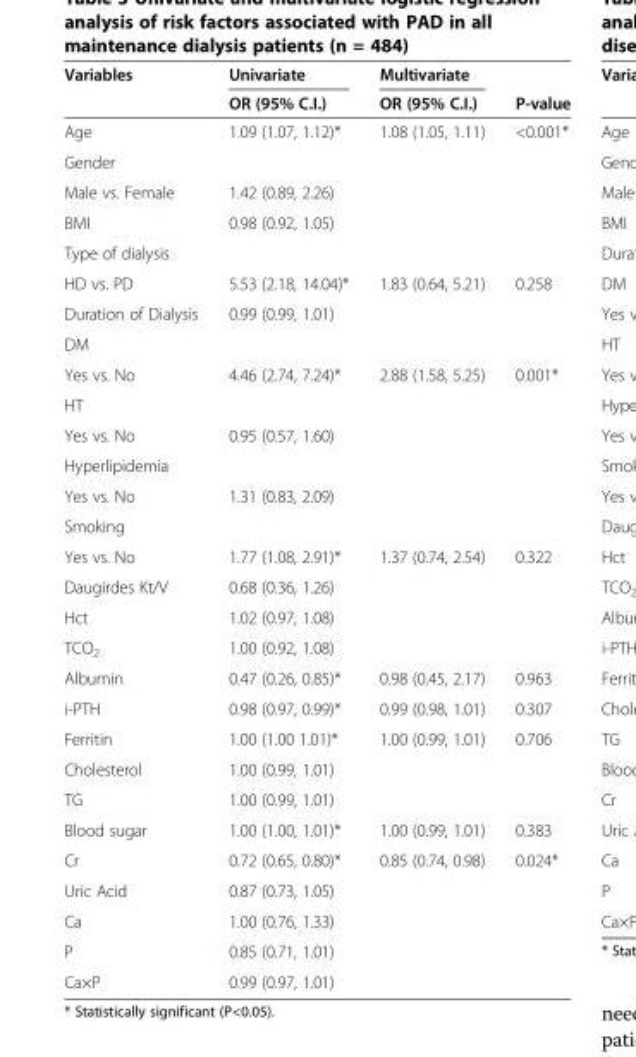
<table><thead><tr><td rowspan="2">Variables</td><td rowspan="2">Univariate OR (95% C.I.)</td><td rowspan="2">Multivariate OR (95% C.I.)</td><td rowspan="2">P-value</td></tr><tr></tr></thead><tbody><tr><td>Age</td><td>1.09 (1.07, 1.12)*</td><td>1.08 (1.05, 1.11)</td><td>&lt;0.001*</td></tr><tr><td colspan="4">Gender</td></tr><tr><td>Male vs. Female</td><td>1.42 (0.89, 2.26)</td><td></td><td></td></tr><tr><td>BMI</td><td>0.98 (0.92, 1.05)</td><td></td><td></td></tr><tr><td colspan="4">Type of dialysis</td></tr><tr><td>HD vs. PD</td><td>5.53 (2.18, 14.04)*</td><td>1.83 (0.64, 5.21)</td><td>0.258</td></tr><tr><td>Duration of Dialysis</td><td>0.99 (0.99, 1.01)</td><td></td><td></td></tr><tr><td colspan="4">DM</td></tr><tr><td>Yes vs. No</td><td>4.46 (2.74, 7.24)*</td><td>2.88 (1.58, 5.25)</td><td>0.001*</td></tr><tr><td colspan="4">HT</td></tr><tr><td>Yes vs. No</td><td>0.95 (0.57, 1.60)</td><td></td><td></td></tr><tr><td colspan="4">Hyperlipidemia</td></tr><tr><td>Yes vs. No</td><td>1.31 (0.83, 2.09)</td><td></td><td></td></tr><tr><td colspan="4">Smoking</td></tr><tr><td>Yes vs. No</td><td>1.77 (1.08, 2.91)*</td><td>1.37 (0.74, 2.54)</td><td>0.322</td></tr><tr><td>Daugirdes Kt/V</td><td>0.68 (0.36, 1.26)</td><td></td><td></td></tr><tr><td>Hct</td><td>1.02 (0.97, 1.08)</td><td></td><td></td></tr><tr><td>TCO<sub>2</sub></td><td>1.00 (0.92, 1.08)</td><td></td><td></td></tr><tr><td>Albumin</td><td>0.47 (0.26, 0.85)*</td><td>0.98 (0.45, 2.17)</td><td>0.963</td></tr><tr><td>i-PTH</td><td>0.98 (0.97, 0.99)*</td><td>0.99 (0.98, 1.01)</td><td>0.307</td></tr><tr><td>Ferritin</td><td>1.00 (1.00 1.01)*</td><td>1.00 (0.99, 1.01)</td><td>0.706</td></tr><tr><td>Cholesterol</td><td>1.00 (0.99, 1.01)</td><td></td><td></td></tr><tr><td>TG</td><td>1.00 (0.99, 1.01)</td><td></td><td></td></tr><tr><td>Blood sugar</td><td>1.00 (1.00, 1.01)*</td><td>1.00 (0.99, 1.01)</td><td>0.383</td></tr><tr><td>Cr</td><td>0.72 (0.65, 0.80)*</td><td>0.85 (0.74, 0.98)</td><td>0.024*</td></tr><tr><td>Uric Acid</td><td>0.87 (0.73, 1.05)</td><td></td><td></td></tr><tr><td>Ca</td><td>1.00 (0.76, 1.33)</td><td></td><td></td></tr><tr><td>P</td><td>0.85 (0.71, 1.01)</td><td></td><td></td></tr><tr><td>Ca×P</td><td>0.99 (0.97, 1.01)</td><td></td><td></td></tr></tbody></table>